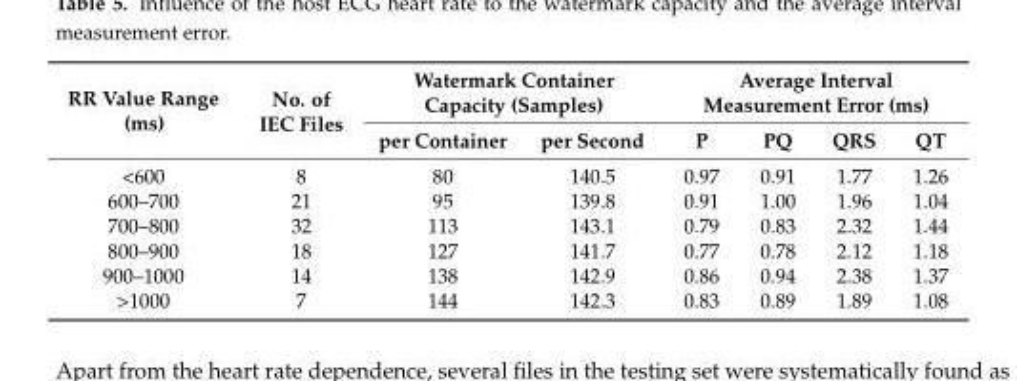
<table><thead><tr><td rowspan="2">RR Value Range (ms)</td><td rowspan="2">No. of IEC Files</td><td colspan="2">Watermark Container Capacity (Samples)</td><td colspan="4">Average Interval Measurement Error (ms)</td></tr><tr><td>per Container</td><td>per Second</td><td>P</td><td>PQ</td><td>QRS</td><td>QT</td></tr></thead><tbody><tr><td>&lt;600</td><td>8</td><td>80</td><td>140.5</td><td>0.97</td><td>0.91</td><td>1.77</td><td>1.26</td></tr><tr><td>600–700</td><td>21</td><td>95</td><td>139.8</td><td>0.91</td><td>1.00</td><td>1.96</td><td>1.04</td></tr><tr><td>700–800</td><td>32</td><td>113</td><td>143.1</td><td>0.79</td><td>0.83</td><td>2.32</td><td>1.44</td></tr><tr><td>800–900</td><td>18</td><td>127</td><td>141.7</td><td>0.77</td><td>0.78</td><td>2.12</td><td>1.18</td></tr><tr><td>900–1000</td><td>14</td><td>138</td><td>142.9</td><td>0.86</td><td>0.94</td><td>2.38</td><td>1.37</td></tr><tr><td>&gt;1000</td><td>7</td><td>144</td><td>142.3</td><td>0.83</td><td>0.89</td><td>1.89</td><td>1.08</td></tr></tbody></table>